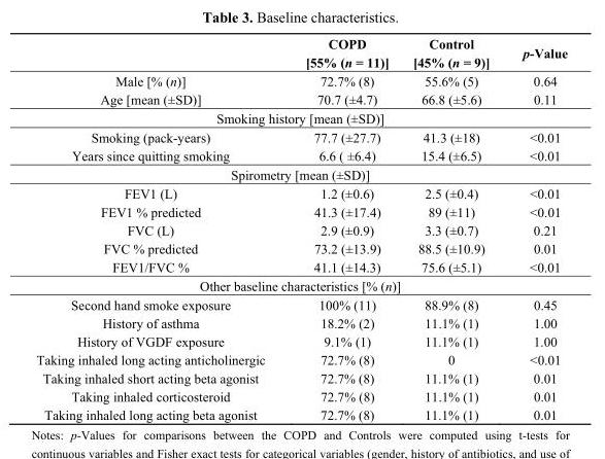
<table><thead><tr><td></td><td>COPD [55% (n = 11)]</td><td>Control [45% (n = 9)]</td><td>p-Value</td></tr></thead><tbody><tr><td>Male [% (n)]</td><td>72.7% (8)</td><td>55.6% (5)</td><td>0.64</td></tr><tr><td>Age [mean (±SD)]</td><td>70.7 (±4.7)</td><td>66.8 (±5.6)</td><td>0.11</td></tr><tr><td colspan="4">Smoking history [mean (±SD)]</td></tr><tr><td>Smoking (pack-years)</td><td>77.7 (±27.7)</td><td>41.3 (±18)</td><td>&lt;0.01</td></tr><tr><td>Years since quitting smoking</td><td>6.6 ( ±6.4)</td><td>15.4 (±6.5)</td><td>&lt;0.01</td></tr><tr><td colspan="4">Spirometry [mean (±SD)]</td></tr><tr><td>FEV1 (L)</td><td>1.2 (±0.6)</td><td>2.5 (±0.4)</td><td>&lt;0.01</td></tr><tr><td>FEV1 % predicted</td><td>41.3 (±17.4)</td><td>89 (±11)</td><td>&lt;0.01</td></tr><tr><td>FVC (L)</td><td>2.9 (±0.9)</td><td>3.3 (±0.7)</td><td>0.21</td></tr><tr><td>FVC % predicted</td><td>73.2 (±13.9)</td><td>88.5 (±10.9)</td><td>0.01</td></tr><tr><td>FEV1/FVC %</td><td>41.1 (±14.3)</td><td>75.6 (±5.1)</td><td>&lt;0.01</td></tr><tr><td colspan="4">Other baseline characteristics [% (n)]</td></tr><tr><td>Second hand smoke exposure</td><td>100% (11)</td><td>88.9% (8)</td><td>0.45</td></tr><tr><td>History of asthma</td><td>18.2% (2)</td><td>11.1% (1)</td><td>1.00</td></tr><tr><td>History of VGDF exposure</td><td>9.1% (1)</td><td>11.1% (1)</td><td>1.00</td></tr><tr><td>Taking inhaled long acting anticholinergic</td><td>72.7% (8)</td><td>0</td><td>&lt;0.01</td></tr><tr><td>Taking inhaled short acting beta agonist</td><td>72.7% (8)</td><td>11.1% (1)</td><td>0.01</td></tr><tr><td>Taking inhaled corticosteroid</td><td>72.7% (8)</td><td>11.1% (1)</td><td>0.01</td></tr><tr><td>Taking inhaled long acting beta agonist</td><td>72.7% (8)</td><td>11.1% (1)</td><td>0.01</td></tr></tbody></table>